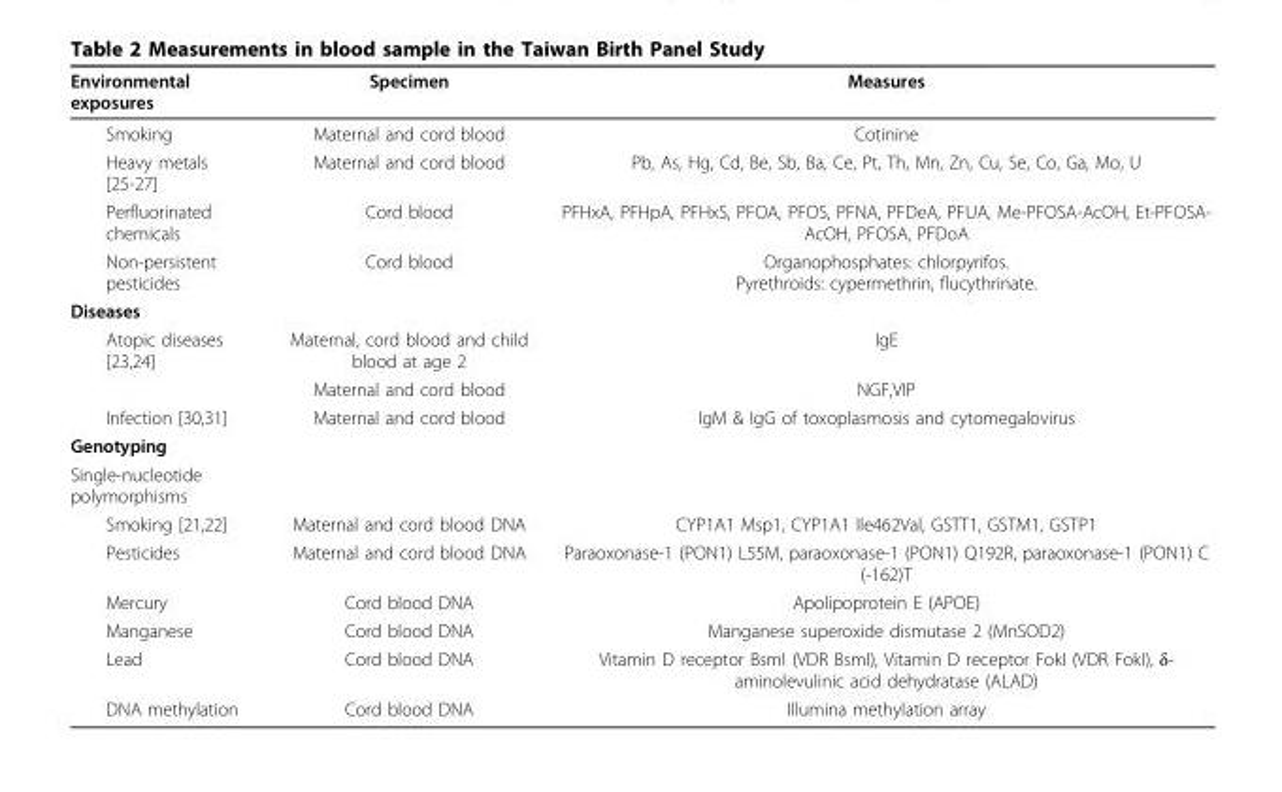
<table><thead><tr><td>Environmental exposures</td><td>Specimen</td><td>Measures</td></tr></thead><tbody><tr><td>Smoking</td><td>Maternal and cord blood</td><td>Cotinine</td></tr><tr><td>Heavy metals [25-27]</td><td>Maternal and cord blood</td><td>Pb, As, Hg, Cd, Be, Sb, Ba, Ce, Pt, Th, Mn, Zn, Cu, Se, Co, Ga, Mo, U</td></tr><tr><td>Perfluorinated chemicals</td><td>Cord blood</td><td>PFHxA, PFHpA, PFHxS, PFOA, PFOS, PFNA, PFDeA, PFUA, Me-PFOSA-AcOH, Et-PFOSA- AcOH, PFOSA, PFDoA</td></tr><tr><td>Non-persistent pesticides</td><td>Cord blood</td><td>Organophosphates: chlorpyrifos. Pyrethroids: cypermethrin, flucythrinate.</td></tr><tr><td colspan="3">Diseases</td></tr><tr><td rowspan="2">Atopic diseases [23,24]</td><td>Maternal, cord blood and child blood at age 2</td><td>IgE</td></tr><tr><td>Maternal and cord blood</td><td>NGF,VIP</td></tr><tr><td>Infection [30,31]</td><td>Maternal and cord blood</td><td>IgM &amp; IgG of toxoplasmosis and cytomegalovirus</td></tr><tr><td colspan="3">Genotyping</td></tr><tr><td colspan="3">Single-nucleotide polymorphisms</td></tr><tr><td>Smoking [21,22]</td><td>Maternal and cord blood DNA</td><td>CYP1A1 Msp1, CYP1A1 Ile462Val, GSTT1, GSTM1, GSTP1</td></tr><tr><td>Pesticides</td><td>Maternal and cord blood DNA</td><td>Paraoxonase-1 (PON1) L55M, paraoxonase-1 (PON1) Q192R, paraoxonase-1 (PON1) C (-162)T</td></tr><tr><td>Mercury</td><td>Cord blood DNA</td><td>Apolipoprotein E (APOE)</td></tr><tr><td>Manganese</td><td>Cord blood DNA</td><td>Manganese superoxide dismutase 2 (MnSOD2)</td></tr><tr><td>Lead</td><td>Cord blood DNA</td><td>Vitamin D receptor BsmI (VDR BsmI), Vitamin D receptor FokI (VDR FokI), δ- aminolevulinic acid dehydratase (ALAD)</td></tr><tr><td>DNA methylation</td><td>Cord blood DNA</td><td>Illumina methylation array</td></tr></tbody></table>